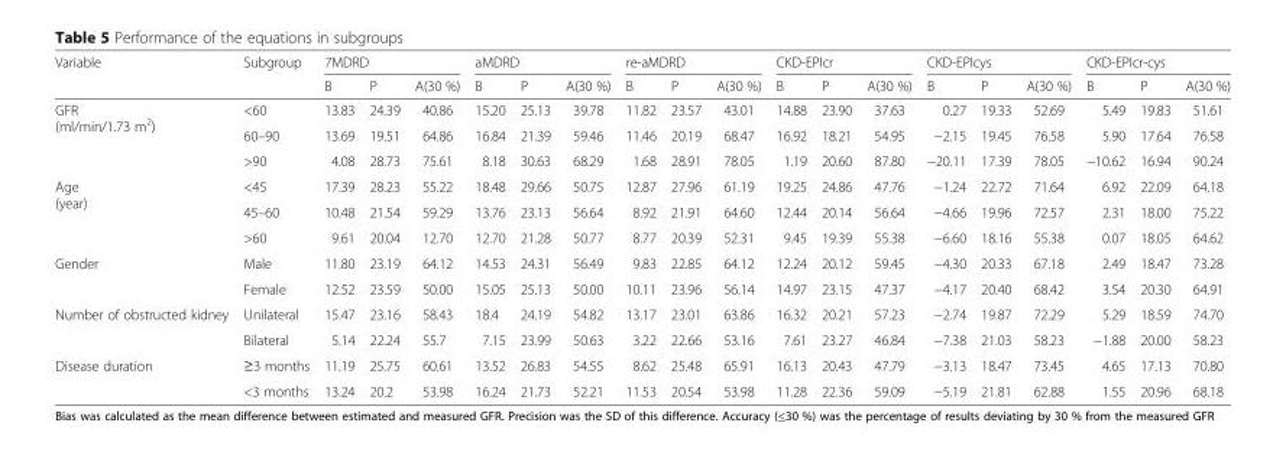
<table><thead><tr><td rowspan="2">Variable</td><td rowspan="2">Subgroup</td><td colspan="3">7MDRD</td><td colspan="3">aMDRD</td><td colspan="3">re-aMDRD</td><td colspan="3">CKD-EPIcr</td><td colspan="3">CKD-EPIcys</td><td colspan="3">CKD-EPIcr-cys</td></tr><tr><td>B</td><td>P</td><td>A(30 %)</td><td>B</td><td>P</td><td>A(30 %)</td><td>B</td><td>P</td><td>A(30 %)</td><td>B</td><td>P</td><td>A(30 %)</td><td>B</td><td>P</td><td>A(30 %)</td><td>B</td><td>P</td><td>A(30 %)</td></tr></thead><tbody><tr><td rowspan="3">GFR (ml/min/1.73 m<sup>2</sup>)</td><td>&lt;60</td><td>13.83</td><td>24.39</td><td>40.86</td><td>15.20</td><td>25.13</td><td>39.78</td><td>11.82</td><td>23.57</td><td>43.01</td><td>14.88</td><td>23.90</td><td>37.63</td><td>0.27</td><td>19.33</td><td>52.69</td><td>5.49</td><td>19.83</td><td>51.61</td></tr><tr><td>60–90</td><td>13.69</td><td>19.51</td><td>64.86</td><td>16.84</td><td>21.39</td><td>59.46</td><td>11.46</td><td>20.19</td><td>68.47</td><td>16.92</td><td>18.21</td><td>54.95</td><td>−2.15</td><td>19.45</td><td>76.58</td><td>5.90</td><td>17.64</td><td>76.58</td></tr><tr><td>&gt;90</td><td>4.08</td><td>28.73</td><td>75.61</td><td>8.18</td><td>30.63</td><td>68.29</td><td>1.68</td><td>28.91</td><td>78.05</td><td>1.19</td><td>20.60</td><td>87.80</td><td>−20.11</td><td>17.39</td><td>78.05</td><td>−10.62</td><td>16.94</td><td>90.24</td></tr><tr><td rowspan="3">Age (year)</td><td>&lt;45</td><td>17.39</td><td>28.23</td><td>55.22</td><td>18.48</td><td>29.66</td><td>50.75</td><td>12.87</td><td>27.96</td><td>61.19</td><td>19.25</td><td>24.86</td><td>47.76</td><td>−1.24</td><td>22.72</td><td>71.64</td><td>6.92</td><td>22.09</td><td>64.18</td></tr><tr><td>45–60</td><td>10.48</td><td>21.54</td><td>59.29</td><td>13.76</td><td>23.13</td><td>56.64</td><td>8.92</td><td>21.91</td><td>64.60</td><td>12.44</td><td>20.14</td><td>56.64</td><td>−4.66</td><td>19.96</td><td>72.57</td><td>2.31</td><td>18.00</td><td>75.22</td></tr><tr><td>&gt;60</td><td>9.61</td><td>20.04</td><td>12.70</td><td>12.70</td><td>21.28</td><td>50.77</td><td>8.77</td><td>20.39</td><td>52.31</td><td>9.45</td><td>19.39</td><td>55.38</td><td>−6.60</td><td>18.16</td><td>55.38</td><td>0.07</td><td>18.05</td><td>64.62</td></tr><tr><td rowspan="2">Gender</td><td>Male</td><td>11.80</td><td>23.19</td><td>64.12</td><td>14.53</td><td>24.31</td><td>56.49</td><td>9.83</td><td>22.85</td><td>64.12</td><td>12.24</td><td>20.12</td><td>59.45</td><td>−4.30</td><td>20.33</td><td>67.18</td><td>2.49</td><td>18.47</td><td>73.28</td></tr><tr><td>Female</td><td>12.52</td><td>23.59</td><td>50.00</td><td>15.05</td><td>25.13</td><td>50.00</td><td>10.11</td><td>23.96</td><td>56.14</td><td>14.97</td><td>23.15</td><td>47.37</td><td>−4.17</td><td>20.40</td><td>68.42</td><td>3.54</td><td>20.30</td><td>64.91</td></tr><tr><td rowspan="2">Number of obstructed kidney</td><td>Unilateral</td><td>15.47</td><td>23.16</td><td>58.43</td><td>18.4</td><td>24.19</td><td>54.82</td><td>13.17</td><td>23.01</td><td>63.86</td><td>16.32</td><td>20.21</td><td>57.23</td><td>−2.74</td><td>19.87</td><td>72.29</td><td>5.29</td><td>18.59</td><td>74.70</td></tr><tr><td>Bilateral</td><td>5.14</td><td>22.24</td><td>55.7</td><td>7.15</td><td>23.99</td><td>50.63</td><td>3.22</td><td>22.66</td><td>53.16</td><td>7.61</td><td>23.27</td><td>46.84</td><td>−7.38</td><td>21.03</td><td>58.23</td><td>−1.88</td><td>20.00</td><td>58.23</td></tr><tr><td rowspan="2">Disease duration</td><td>≥3 months</td><td>11.19</td><td>25.75</td><td>60.61</td><td>13.52</td><td>26.83</td><td>54.55</td><td>8.62</td><td>25.48</td><td>65.91</td><td>16.13</td><td>20.43</td><td>47.79</td><td>−3.13</td><td>18.47</td><td>73.45</td><td>4.65</td><td>17.13</td><td>70.80</td></tr><tr><td>&lt;3 months</td><td>13.24</td><td>20.2</td><td>53.98</td><td>16.24</td><td>21.73</td><td>52.21</td><td>11.53</td><td>20.54</td><td>53.98</td><td>11.28</td><td>22.36</td><td>59.09</td><td>−5.19</td><td>21.81</td><td>62.88</td><td>1.55</td><td>20.96</td><td>68.18</td></tr></tbody></table>